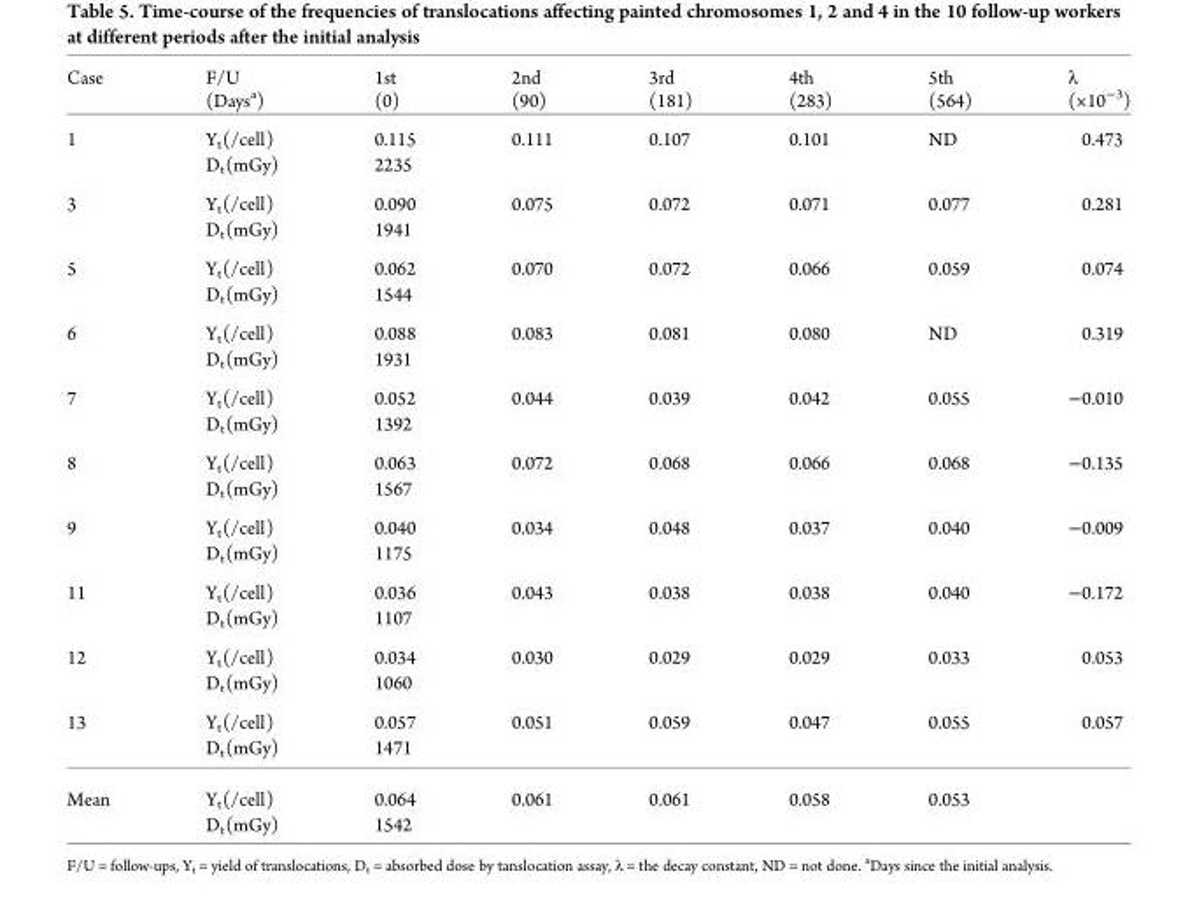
<table><thead><tr><td>Case</td><td>F/U (Days<sup>a</sup>)</td><td>1st (0)</td><td>2nd (90)</td><td>3rd (181)</td><td>4th (283)</td><td>5th (564)</td><td>λ (×10<sup>−3</sup>)</td></tr></thead><tbody><tr><td>1</td><td>Y<sub>t</sub>(/cell) D<sub>t</sub>(mGy)</td><td>0.115 2235</td><td>0.111</td><td>0.107</td><td>0.101</td><td>ND</td><td>0.473</td></tr><tr><td>3</td><td>Y<sub>t</sub>(/cell) D<sub>t</sub>(mGy)</td><td>0.090 1941</td><td>0.075</td><td>0.072</td><td>0.071</td><td>0.077</td><td>0.281</td></tr><tr><td>5</td><td>Y<sub>t</sub>(/cell) D<sub>t</sub>(mGy)</td><td>0.062 1544</td><td>0.070</td><td>0.072</td><td>0.066</td><td>0.059</td><td>0.074</td></tr><tr><td>6</td><td>Y<sub>t</sub>(/cell) D<sub>t</sub>(mGy)</td><td>0.088 1931</td><td>0.083</td><td>0.081</td><td>0.080</td><td>ND</td><td>0.319</td></tr><tr><td>7</td><td>Y<sub>t</sub>(/cell) D<sub>t</sub>(mGy)</td><td>0.052 1392</td><td>0.044</td><td>0.039</td><td>0.042</td><td>0.055</td><td>−0.010</td></tr><tr><td>8</td><td>Y<sub>t</sub>(/cell) D<sub>t</sub>(mGy)</td><td>0.063 1567</td><td>0.072</td><td>0.068</td><td>0.066</td><td>0.068</td><td>−0.135</td></tr><tr><td>9</td><td>Y<sub>t</sub>(/cell) D<sub>t</sub>(mGy)</td><td>0.040 1175</td><td>0.034</td><td>0.048</td><td>0.037</td><td>0.040</td><td>−0.009</td></tr><tr><td>11</td><td>Y<sub>t</sub>(/cell) D<sub>t</sub>(mGy)</td><td>0.036 1107</td><td>0.043</td><td>0.038</td><td>0.038</td><td>0.040</td><td>−0.172</td></tr><tr><td>12</td><td>Y<sub>t</sub>(/cell) D<sub>t</sub>(mGy)</td><td>0.034 1060</td><td>0.030</td><td>0.029</td><td>0.029</td><td>0.033</td><td>0.053</td></tr><tr><td>13</td><td>Y<sub>t</sub>(/cell) D<sub>t</sub>(mGy)</td><td>0.057 1471</td><td>0.051</td><td>0.059</td><td>0.047</td><td>0.055</td><td>0.057</td></tr><tr><td>Mean</td><td>Y<sub>t</sub>(/cell) D<sub>t</sub>(mGy)</td><td>0.064 1542</td><td>0.061</td><td>0.061</td><td>0.058</td><td>0.053</td><td></td></tr></tbody></table>